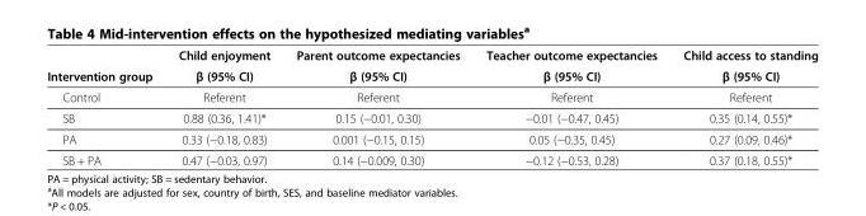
<table><thead><tr><td rowspan="2">Intervention group</td><td rowspan="2">Child enjoyment β (95% CI)</td><td rowspan="2">Parent outcome expectancies β (95% CI)</td><td rowspan="2">Teacher outcome expectancies β (95% CI)</td><td rowspan="2">Child access to standing β (95% CI)</td></tr><tr></tr></thead><tbody><tr><td>Control</td><td>Referent</td><td>Referent</td><td>Referent</td><td>Referent</td></tr><tr><td>SB</td><td>0.88 (0.36, 1.41)*</td><td>0.15 (−0.01, 0.30)</td><td>−0.01 (−0.47, 0.45)</td><td>0.35 (0.14, 0.55)*</td></tr><tr><td>PA</td><td>0.33 (−0.18, 0.83)</td><td>0.001 (−0.15, 0.15)</td><td>0.05 (−0.35, 0.45)</td><td>0.27 (0.09, 0.46)*</td></tr><tr><td>SB + PA</td><td>0.47 (−0.03, 0.97)</td><td>0.14 (−0.009, 0.30)</td><td>−0.12 (−0.53, 0.28)</td><td>0.37 (0.18, 0.55)*</td></tr></tbody></table>